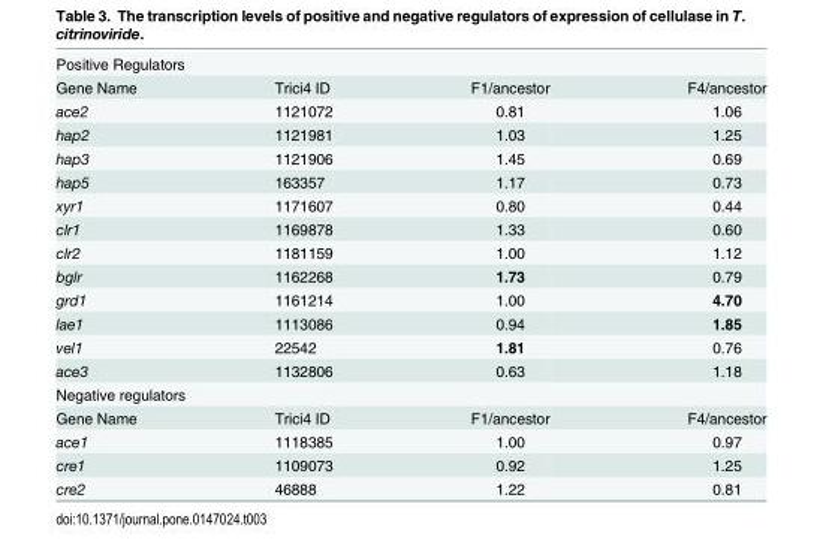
<table><tbody><tr><td colspan="4">Positive Regulators</td></tr><tr><td>Gene Name</td><td>Trici4 ID</td><td>F1/ancestor</td><td>F4/ancestor</td></tr><tr><td>ace2</td><td>1121072</td><td>0.81</td><td>1.06</td></tr><tr><td>hap2</td><td>1121981</td><td>1.03</td><td>1.25</td></tr><tr><td>hap3</td><td>1121906</td><td>1.45</td><td>0.69</td></tr><tr><td>hap5</td><td>163357</td><td>1.17</td><td>0.73</td></tr><tr><td>xyr1</td><td>1171607</td><td>0.80</td><td>0.44</td></tr><tr><td>clr1</td><td>1169878</td><td>1.33</td><td>0.60</td></tr><tr><td>clr2</td><td>1181159</td><td>1.00</td><td>1.12</td></tr><tr><td>bglr</td><td>1162268</td><td>1.73</td><td>0.79</td></tr><tr><td>grd1</td><td>1161214</td><td>1.00</td><td>4.70</td></tr><tr><td>lae1</td><td>1113086</td><td>0.94</td><td>1.85</td></tr><tr><td>vel1</td><td>22542</td><td>1.81</td><td>0.76</td></tr><tr><td>ace3</td><td>1132806</td><td>0.63</td><td>1.18</td></tr><tr><td colspan="4">Negative regulators</td></tr><tr><td>Gene Name</td><td>Trici4 ID</td><td>F1/ancestor</td><td>F4/ancestor</td></tr><tr><td>ace1</td><td>1118385</td><td>1.00</td><td>0.97</td></tr><tr><td>cre1</td><td>1109073</td><td>0.92</td><td>1.25</td></tr><tr><td>cre2</td><td>46888</td><td>1.22</td><td>0.81</td></tr></tbody></table>